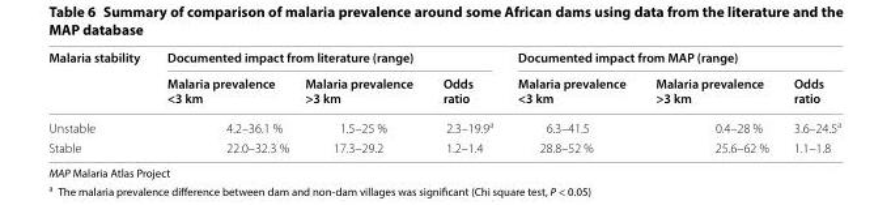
<table><thead><tr><td rowspan="2">Malaria stability</td><td colspan="3">Documented impact from literature (range)</td><td colspan="3">Documented impact from MAP (range)</td></tr><tr><td>Malaria prevalence &lt;3 km</td><td>Malaria prevalence &gt;3 km</td><td>Odds ratio</td><td>Malaria prevalence &lt;3 km</td><td>Malaria prevalence &gt;3 km</td><td>Odds ratio</td></tr></thead><tbody><tr><td>Unstable</td><td>4.2–36.1 %</td><td>1.5–25 %</td><td>2.3–19.9<sup>a</sup></td><td>6.3–41.5</td><td>0.4–28 %</td><td>3.6–24.5<sup>a</sup></td></tr><tr><td>Stable</td><td>22.0–32.3 %</td><td>17.3–29.2</td><td>1.2–1.4</td><td>28.8–52 %</td><td>25.6–62 %</td><td>1.1–1.8</td></tr></tbody></table>